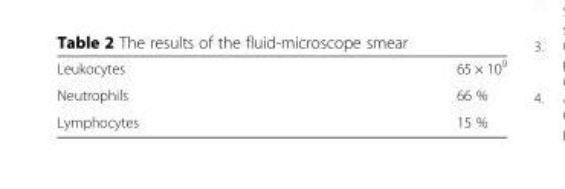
<table><tbody><tr><td>Leukocytes</td><td>65 × 10<sup>9</sup></td></tr><tr><td>Neutrophils</td><td>66 %</td></tr><tr><td>Lymphocytes</td><td>15 %</td></tr></tbody></table>